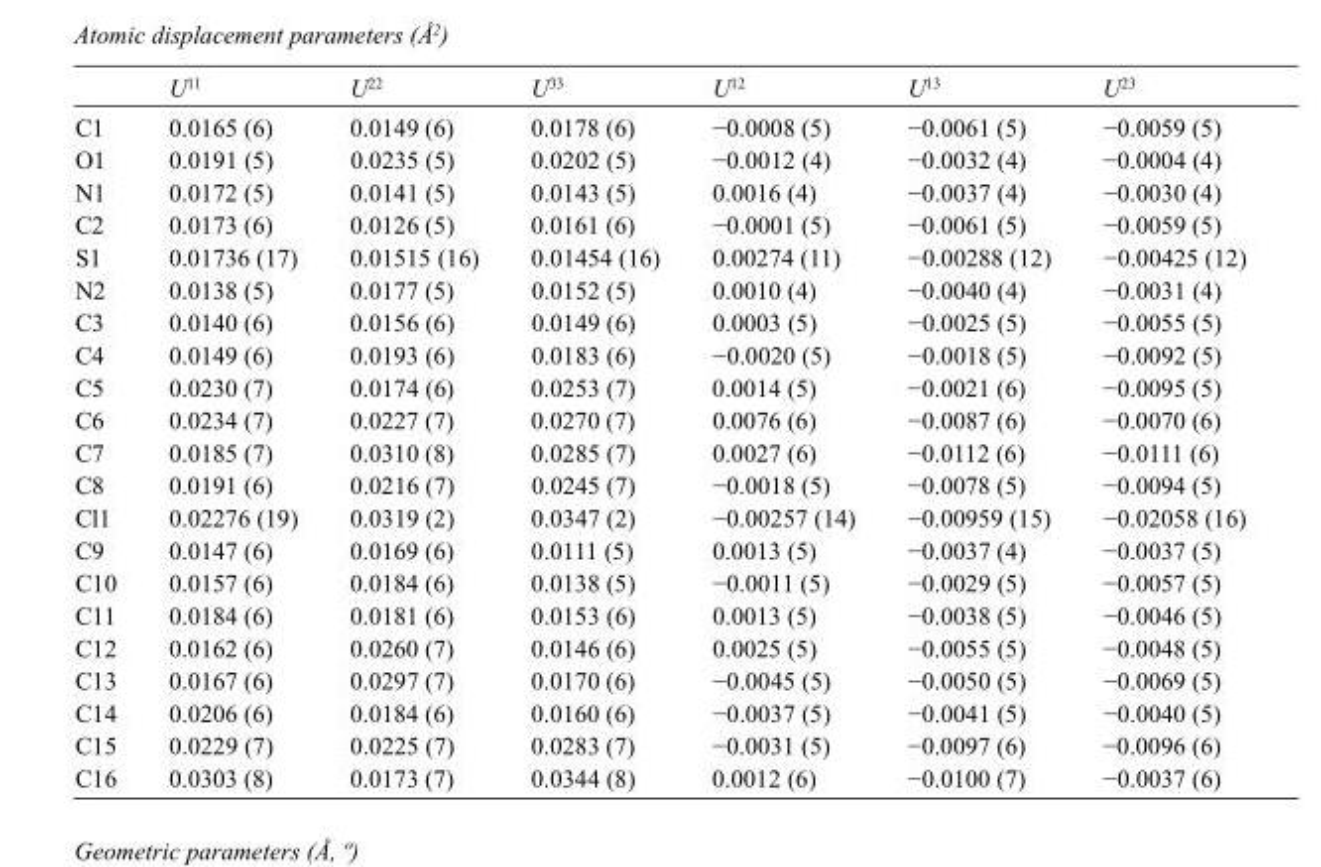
<table><thead><tr><td></td><td>U<sup>11</sup></td><td>U<sup>22</sup></td><td>U<sup>33</sup></td><td>U<sup>12</sup></td><td>U<sup>13</sup></td><td>U<sup>23</sup></td></tr></thead><tbody><tr><td>C1</td><td>0.0165 (6)</td><td>0.0149 (6)</td><td>0.0178 (6)</td><td>−0.0008 (5)</td><td>−0.0061 (5)</td><td>−0.0059 (5)</td></tr><tr><td>O1</td><td>0.0191 (5)</td><td>0.0235 (5)</td><td>0.0202 (5)</td><td>−0.0012 (4)</td><td>−0.0032 (4)</td><td>−0.0004 (4)</td></tr><tr><td>N1</td><td>0.0172 (5)</td><td>0.0141 (5)</td><td>0.0143 (5)</td><td>0.0016 (4)</td><td>−0.0037 (4)</td><td>−0.0030 (4)</td></tr><tr><td>C2</td><td>0.0173 (6)</td><td>0.0126 (5)</td><td>0.0161 (6)</td><td>−0.0001 (5)</td><td>−0.0061 (5)</td><td>−0.0059 (5)</td></tr><tr><td>S1</td><td>0.01736 (17)</td><td>0.01515 (16)</td><td>0.01454 (16)</td><td>0.00274 (11)</td><td>−0.00288 (12)</td><td>−0.00425 (12)</td></tr><tr><td>N2</td><td>0.0138 (5)</td><td>0.0177 (5)</td><td>0.0152 (5)</td><td>0.0010 (4)</td><td>−0.0040 (4)</td><td>−0.0031 (4)</td></tr><tr><td>C3</td><td>0.0140 (6)</td><td>0.0156 (6)</td><td>0.0149 (6)</td><td>0.0003 (5)</td><td>−0.0025 (5)</td><td>−0.0055 (5)</td></tr><tr><td>C4</td><td>0.0149 (6)</td><td>0.0193 (6)</td><td>0.0183 (6)</td><td>−0.0020 (5)</td><td>−0.0018 (5)</td><td>−0.0092 (5)</td></tr><tr><td>C5</td><td>0.0230 (7)</td><td>0.0174 (6)</td><td>0.0253 (7)</td><td>0.0014 (5)</td><td>−0.0021 (6)</td><td>−0.0095 (5)</td></tr><tr><td>C6</td><td>0.0234 (7)</td><td>0.0227 (7)</td><td>0.0270 (7)</td><td>0.0076 (6)</td><td>−0.0087 (6)</td><td>−0.0070 (6)</td></tr><tr><td>C7</td><td>0.0185 (7)</td><td>0.0310 (8)</td><td>0.0285 (7)</td><td>0.0027 (6)</td><td>−0.0112 (6)</td><td>−0.0111 (6)</td></tr><tr><td>C8</td><td>0.0191 (6)</td><td>0.0216 (7)</td><td>0.0245 (7)</td><td>−0.0018 (5)</td><td>−0.0078 (5)</td><td>−0.0094 (5)</td></tr><tr><td>Cl1</td><td>0.02276 (19)</td><td>0.0319 (2)</td><td>0.0347 (2)</td><td>−0.00257 (14)</td><td>−0.00959 (15)</td><td>−0.02058 (16)</td></tr><tr><td>C9</td><td>0.0147 (6)</td><td>0.0169 (6)</td><td>0.0111 (5)</td><td>0.0013 (5)</td><td>−0.0037 (4)</td><td>−0.0037 (5)</td></tr><tr><td>C10</td><td>0.0157 (6)</td><td>0.0184 (6)</td><td>0.0138 (5)</td><td>−0.0011 (5)</td><td>−0.0029 (5)</td><td>−0.0057 (5)</td></tr><tr><td>C11</td><td>0.0184 (6)</td><td>0.0181 (6)</td><td>0.0153 (6)</td><td>0.0013 (5)</td><td>−0.0038 (5)</td><td>−0.0046 (5)</td></tr><tr><td>C12</td><td>0.0162 (6)</td><td>0.0260 (7)</td><td>0.0146 (6)</td><td>0.0025 (5)</td><td>−0.0055 (5)</td><td>−0.0048 (5)</td></tr><tr><td>C13</td><td>0.0167 (6)</td><td>0.0297 (7)</td><td>0.0170 (6)</td><td>−0.0045 (5)</td><td>−0.0050 (5)</td><td>−0.0069 (5)</td></tr><tr><td>C14</td><td>0.0206 (6)</td><td>0.0184 (6)</td><td>0.0160 (6)</td><td>−0.0037 (5)</td><td>−0.0041 (5)</td><td>−0.0040 (5)</td></tr><tr><td>C15</td><td>0.0229 (7)</td><td>0.0225 (7)</td><td>0.0283 (7)</td><td>−0.0031 (5)</td><td>−0.0097 (6)</td><td>−0.0096 (6)</td></tr><tr><td>C16</td><td>0.0303 (8)</td><td>0.0173 (7)</td><td>0.0344 (8)</td><td>0.0012 (6)</td><td>−0.0100 (7)</td><td>−0.0037 (6)</td></tr></tbody></table>